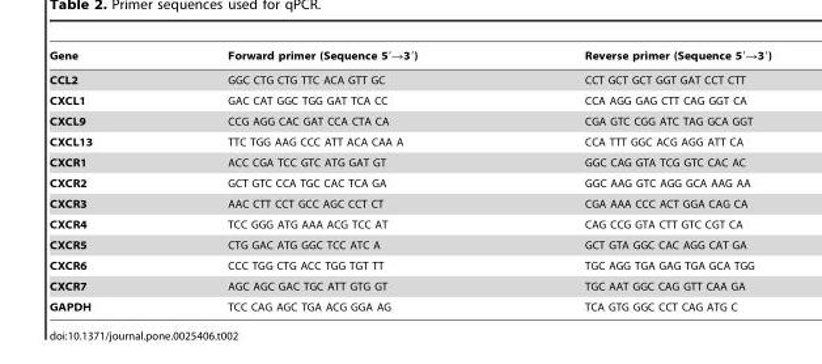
<table><thead><tr><td>Gene</td><td>Forward primer (Sequence 5′→3′)</td><td>Reverse primer (Sequence 5′→3′)</td></tr></thead><tbody><tr><td>CCL2</td><td>GGC CTG CTG TTC ACA GTT GC</td><td>CCT GCT GCT GGT GAT CCT CTT</td></tr><tr><td>CXCL1</td><td>GAC CAT GGC TGG GAT TCA CC</td><td>CCA AGG GAG CTT CAG GGT CA</td></tr><tr><td>CXCL9</td><td>CCG AGG CAC GAT CCA CTA CA</td><td>CGA GTC CGG ATC TAG GCA GGT</td></tr><tr><td>CXCL13</td><td>TTC TGG AAG CCC ATT ACA CAA A</td><td>CCA TTT GGC ACG AGG ATT CA</td></tr><tr><td>CXCR1</td><td>ACC CGA TCC GTC ATG GAT GT</td><td>GGC CAG GTA TCG GTC CAC AC</td></tr><tr><td>CXCR2</td><td>GCT GTC CCA TGC CAC TCA GA</td><td>GGC AAG GTC AGG GCA AAG AA</td></tr><tr><td>CXCR3</td><td>AAC CTT CCT GCC AGC CCT CT</td><td>CGA AAA CCC ACT GGA CAG CA</td></tr><tr><td>CXCR4</td><td>TCC GGG ATG AAA ACG TCC AT</td><td>CAG CCG GTA CTT GTC CGT CA</td></tr><tr><td>CXCR5</td><td>CTG GAC ATG GGC TCC ATC A</td><td>GCT GTA GGC CAC AGG CAT GA</td></tr><tr><td>CXCR6</td><td>CCC TGG CTG ACC TGG TGT TT</td><td>TGC AGG TGA GAG TGA GCA TGG</td></tr><tr><td>CXCR7</td><td>AGC AGC GAC TGC ATT GTG GT</td><td>TGC AAT GGC CAG GTT CAA GA</td></tr><tr><td>GAPDH</td><td>TCC CAG AGC TGA ACG GGA AG</td><td>TCA GTG GGC CCT CAG ATG C</td></tr></tbody></table>